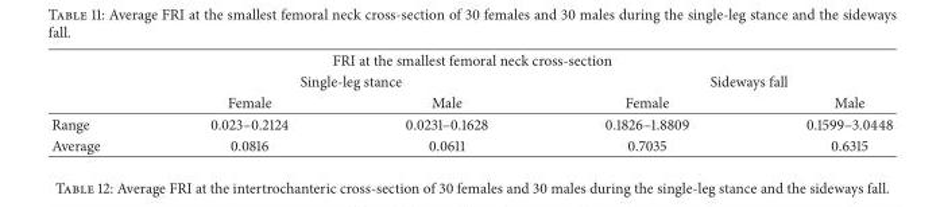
<table><thead><tr><td colspan="5">FRI at the smallest femoral neck cross-section</td></tr><tr><td rowspan="2"></td><td colspan="2">Single-leg stance</td><td colspan="2">Sideways fall</td></tr><tr><td>Female</td><td>Male</td><td>Female</td><td>Male</td></tr></thead><tbody><tr><td>Range</td><td>0.023–0.2124</td><td>0.0231–0.1628</td><td>0.1826–1.8809</td><td>0.1599–3.0448</td></tr><tr><td>Average</td><td>0.0816</td><td>0.0611</td><td>0.7035</td><td>0.6315</td></tr></tbody></table>